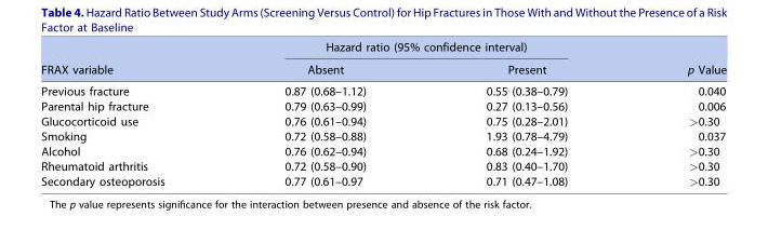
<table><thead><tr><td rowspan="2">FRAX variable</td><td colspan="2">Hazard ratio (95% confidence interval)</td><td rowspan="2">p Value</td></tr><tr><td>Absent</td><td>Present</td></tr></thead><tbody><tr><td>Previous fracture</td><td>0.87 (0.68–1.12)</td><td>0.55 (0.38–0.79)</td><td>0.040</td></tr><tr><td>Parental hip fracture</td><td>0.79 (0.63–0.99)</td><td>0.27 (0.13–0.56)</td><td>0.006</td></tr><tr><td>Glucocorticoid use</td><td>0.76 (0.61–0.94)</td><td>0.75 (0.28–2.01)</td><td>&gt;0.30</td></tr><tr><td>Smoking</td><td>0.72 (0.58–0.88)</td><td>1.93 (0.78–4.79)</td><td>0.037</td></tr><tr><td>Alcohol</td><td>0.76 (0.62–0.94)</td><td>0.68 (0.24–1.92)</td><td>&gt;0.30</td></tr><tr><td>Rheumatoid arthritis</td><td>0.72 (0.58–0.90)</td><td>0.83 (0.40–1.70)</td><td>&gt;0.30</td></tr><tr><td>Secondary osteoporosis</td><td>0.77 (0.61–0.97</td><td>0.71 (0.47–1.08)</td><td>&gt;0.30</td></tr></tbody></table>